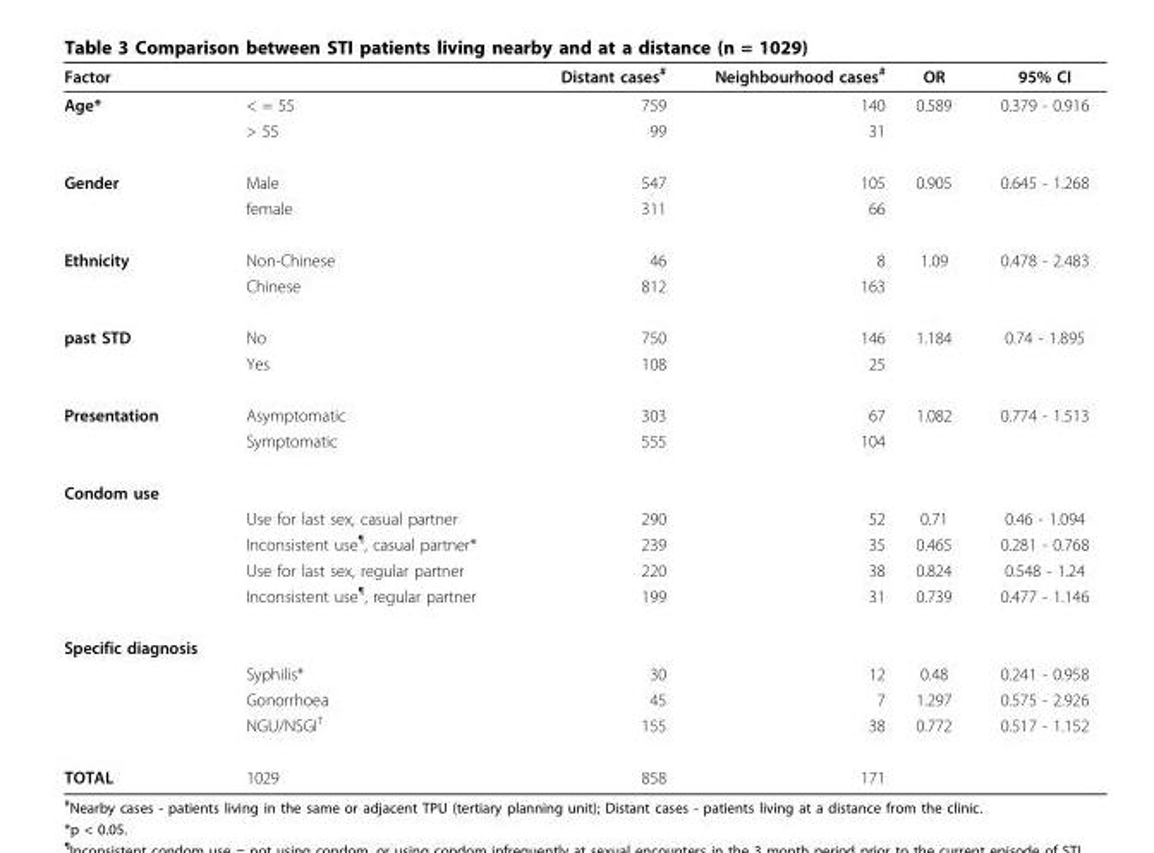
<table><thead><tr><td>Factor</td><td></td><td>Distant cases<sup>#</sup></td><td>Neighbourhood cases<sup>#</sup></td><td>OR</td><td>95% CI</td></tr></thead><tbody><tr><td rowspan="2">Age*</td><td>&lt; = 55</td><td>759</td><td>140</td><td>0.589</td><td>0.379 - 0.916</td></tr><tr><td>&gt; 55</td><td>99</td><td>31</td><td></td><td></td></tr><tr><td rowspan="2">Gender</td><td>Male</td><td>547</td><td>105</td><td>0.905</td><td>0.645 - 1.268</td></tr><tr><td>female</td><td>311</td><td>66</td><td></td><td></td></tr><tr><td rowspan="2">Ethnicity</td><td>Non-Chinese</td><td>46</td><td>8</td><td>1.09</td><td>0.478 - 2.483</td></tr><tr><td>Chinese</td><td>812</td><td>163</td><td></td><td></td></tr><tr><td rowspan="2">past STD</td><td>No</td><td>750</td><td>146</td><td>1.184</td><td>0.74 - 1.895</td></tr><tr><td>Yes</td><td>108</td><td>25</td><td></td><td></td></tr><tr><td rowspan="2">Presentation</td><td>Asymptomatic</td><td>303</td><td>67</td><td>1.082</td><td>0.774 - 1.513</td></tr><tr><td>Symptomatic</td><td>555</td><td>104</td><td></td><td></td></tr><tr><td colspan="6">Condom use</td></tr><tr><td></td><td>Use for last sex, casual partner</td><td>290</td><td>52</td><td>0.71</td><td>0.46 - 1.094</td></tr><tr><td></td><td>Inconsistent use<sup>¶</sup>, casual partner*</td><td>239</td><td>35</td><td>0.465</td><td>0.281 - 0.768</td></tr><tr><td></td><td>Use for last sex, regular partner</td><td>220</td><td>38</td><td>0.824</td><td>0.548 - 1.24</td></tr><tr><td></td><td>Inconsistent use<sup>¶</sup>, regular partner</td><td>199</td><td>31</td><td>0.739</td><td>0.477 - 1.146</td></tr><tr><td colspan="6">Specific diagnosis</td></tr><tr><td></td><td>Syphilis*</td><td>30</td><td>12</td><td>0.48</td><td>0.241 - 0.958</td></tr><tr><td></td><td>Gonorrhoea</td><td>45</td><td>7</td><td>1.297</td><td>0.575 - 2.926</td></tr><tr><td></td><td>NGU/NSGI<sup>†</sup></td><td>155</td><td>38</td><td>0.772</td><td>0.517 - 1.152</td></tr><tr><td>TOTAL</td><td>1029</td><td>858</td><td>171</td><td></td><td></td></tr></tbody></table>